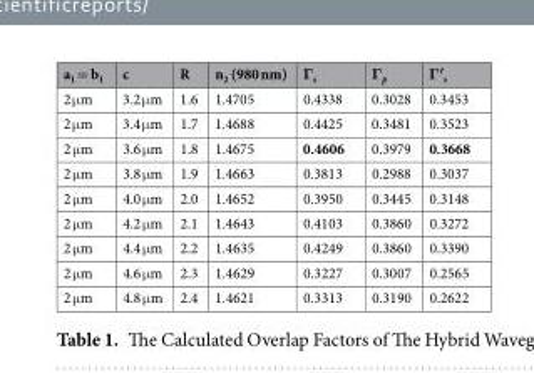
<table><thead><tr><td>a<sub>1</sub> = b<sub>1</sub></td><td>c</td><td>R</td><td>n<sub>2</sub> (980 nm)</td><td>Γ<sub>s</sub></td><td>Γ<sub>p</sub></td><td>Γ′<sub>s</sub></td></tr></thead><tbody><tr><td>2 μm</td><td>3.2 μm</td><td>1.6</td><td>1.4705</td><td>0.4338</td><td>0.3028</td><td>0.3453</td></tr><tr><td>2 μm</td><td>3.4 μm</td><td>1.7</td><td>1.4688</td><td>0.4425</td><td>0.3481</td><td>0.3523</td></tr><tr><td>2 μm</td><td>3.6 μm</td><td>1.8</td><td>1.4675</td><td>0.4606</td><td>0.3979</td><td>0.3668</td></tr><tr><td>2 μm</td><td>3.8 μm</td><td>1.9</td><td>1.4663</td><td>0.3813</td><td>0.2988</td><td>0.3037</td></tr><tr><td>2 μm</td><td>4.0 μm</td><td>2.0</td><td>1.4652</td><td>0.3950</td><td>0.3445</td><td>0.3148</td></tr><tr><td>2 μm</td><td>4.2 μm</td><td>2.1</td><td>1.4643</td><td>0.4103</td><td>0.3860</td><td>0.3272</td></tr><tr><td>2 μm</td><td>4.4 μm</td><td>2.2</td><td>1.4635</td><td>0.4249</td><td>0.3860</td><td>0.3390</td></tr><tr><td>2 μm</td><td>4.6 μm</td><td>2.3</td><td>1.4629</td><td>0.3227</td><td>0.3007</td><td>0.2565</td></tr><tr><td>2 μm</td><td>4.8 μm</td><td>2.4</td><td>1.4621</td><td>0.3313</td><td>0.3190</td><td>0.2622</td></tr></tbody></table>